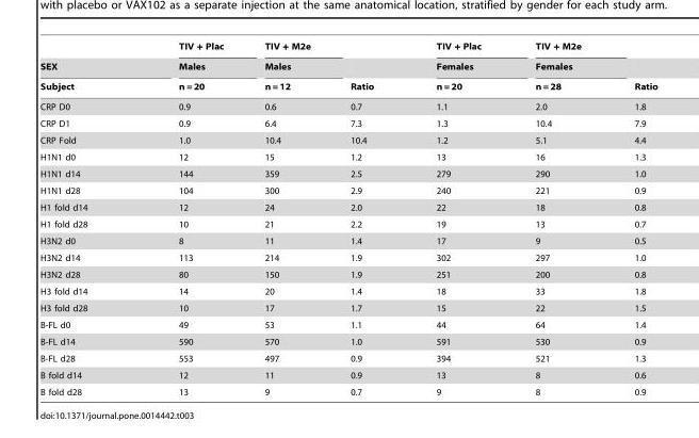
<table><thead><tr><td rowspan="3">SEX Subject</td><td rowspan="3">TIV + Plac Males n = 20</td><td rowspan="3">TIV + M2e Males n = 12</td><td rowspan="3">Ratio</td><td rowspan="3">TIV + Plac Females n = 20</td><td rowspan="3">TIV + M2e Females n = 28</td><td rowspan="3">Ratio</td></tr><tr></tr><tr></tr></thead><tbody><tr><td>CRP D0</td><td>0.9</td><td>0.6</td><td>0.7</td><td>1.1</td><td>2.0</td><td>1.8</td></tr><tr><td>CRP D1</td><td>0.9</td><td>6.4</td><td>7.3</td><td>1.3</td><td>10.4</td><td>7.9</td></tr><tr><td>CRP Fold</td><td>1.0</td><td>10.4</td><td>10.4</td><td>1.2</td><td>5.1</td><td>4.4</td></tr><tr><td>H1N1 d0</td><td>12</td><td>15</td><td>1.2</td><td>13</td><td>16</td><td>1.3</td></tr><tr><td>H1N1 d14</td><td>144</td><td>359</td><td>2.5</td><td>279</td><td>290</td><td>1.0</td></tr><tr><td>H1N1 d28</td><td>104</td><td>300</td><td>2.9</td><td>240</td><td>221</td><td>0.9</td></tr><tr><td>H1 fold d14</td><td>12</td><td>24</td><td>2.0</td><td>22</td><td>18</td><td>0.8</td></tr><tr><td>H1 fold d28</td><td>10</td><td>21</td><td>2.2</td><td>19</td><td>13</td><td>0.7</td></tr><tr><td>H3N2 d0</td><td>8</td><td>11</td><td>1.4</td><td>17</td><td>9</td><td>0.5</td></tr><tr><td>H3N2 d14</td><td>113</td><td>214</td><td>1.9</td><td>302</td><td>297</td><td>1.0</td></tr><tr><td>H3N2 d28</td><td>80</td><td>150</td><td>1.9</td><td>251</td><td>200</td><td>0.8</td></tr><tr><td>H3 fold d14</td><td>14</td><td>20</td><td>1.4</td><td>18</td><td>33</td><td>1.8</td></tr><tr><td>H3 fold d28</td><td>10</td><td>17</td><td>1.7</td><td>15</td><td>22</td><td>1.5</td></tr><tr><td>B-FL d0</td><td>49</td><td>53</td><td>1.1</td><td>44</td><td>64</td><td>1.4</td></tr><tr><td>B-FL d14</td><td>590</td><td>570</td><td>1.0</td><td>591</td><td>530</td><td>0.9</td></tr><tr><td>B-FL d28</td><td>553</td><td>497</td><td>0.9</td><td>394</td><td>521</td><td>1.3</td></tr><tr><td>B fold d14</td><td>12</td><td>11</td><td>0.9</td><td>13</td><td>8</td><td>0.6</td></tr><tr><td>B fold d28</td><td>13</td><td>9</td><td>0.7</td><td>9</td><td>8</td><td>0.9</td></tr></tbody></table>